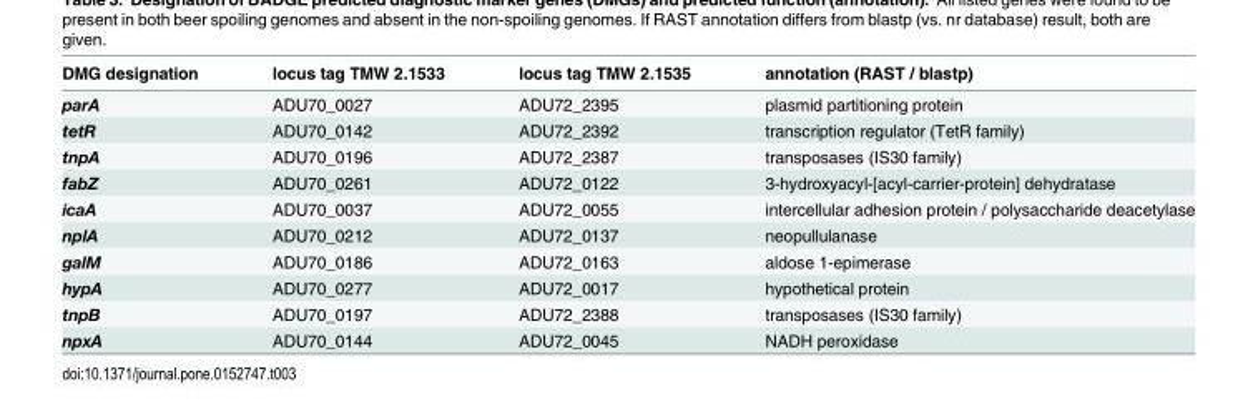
<table><thead><tr><td>DMG designation</td><td>locus tag TMW 2.1533</td><td>locus tag TMW 2.1535</td><td>annotation (RAST / blastp)</td></tr></thead><tbody><tr><td>parA</td><td>ADU70_0027</td><td>ADU72_2395</td><td>plasmid partitioning protein</td></tr><tr><td>tetR</td><td>ADU70_0142</td><td>ADU72_2392</td><td>transcription regulator (TetR family)</td></tr><tr><td>tnpA</td><td>ADU70_0196</td><td>ADU72_2387</td><td>transposases (IS30 family)</td></tr><tr><td>fabZ</td><td>ADU70_0261</td><td>ADU72_0122</td><td>3-hydroxyacyl-[acyl-carrier-protein] dehydratase</td></tr><tr><td>icaA</td><td>ADU70_0037</td><td>ADU72_0055</td><td>intercellular adhesion protein / polysaccharide deacetylase</td></tr><tr><td>nplA</td><td>ADU70_0212</td><td>ADU72_0137</td><td>neopullulanase</td></tr><tr><td>galM</td><td>ADU70_0186</td><td>ADU72_0163</td><td>aldose 1-epimerase</td></tr><tr><td>hypA</td><td>ADU70_0277</td><td>ADU72_0017</td><td>hypothetical protein</td></tr><tr><td>tnpB</td><td>ADU70_0197</td><td>ADU72_2388</td><td>transposases (IS30 family)</td></tr><tr><td>npxA</td><td>ADU70_0144</td><td>ADU72_0045</td><td>NADH peroxidase</td></tr></tbody></table>